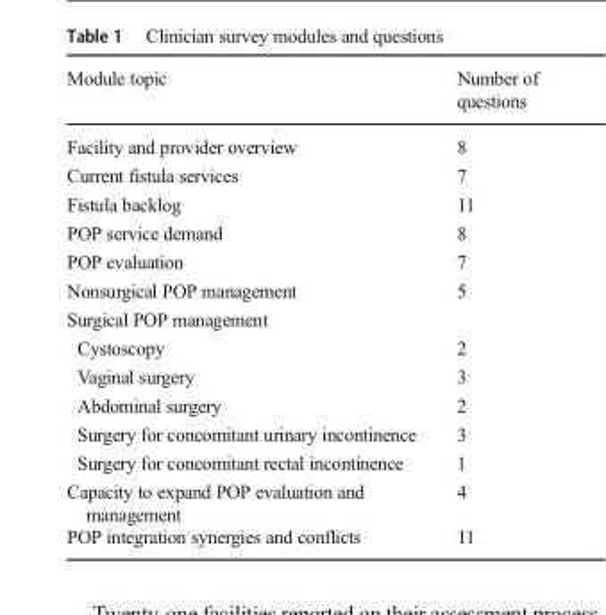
<table><thead><tr><td>Module topic</td><td>Number of questions</td></tr></thead><tbody><tr><td>Facility and provider overview</td><td>8</td></tr><tr><td>Current fistula services</td><td>7</td></tr><tr><td>Fistula backlog</td><td>11</td></tr><tr><td>POP service demand</td><td>8</td></tr><tr><td>POP evaluation</td><td>7</td></tr><tr><td>Nonsurgical POP management</td><td>5</td></tr><tr><td colspan="2">Surgical POP management</td></tr><tr><td>Cystoscopy</td><td>2</td></tr><tr><td>Vaginal surgery</td><td>3</td></tr><tr><td>Abdominal surgery</td><td>2</td></tr><tr><td>Surgery for concomitant urinary incontinence</td><td>3</td></tr><tr><td>Surgery for concomitant rectal incontinence</td><td>1</td></tr><tr><td>Capacity to expand POP evaluation and management</td><td>4</td></tr><tr><td>POP integration synergies and conflicts</td><td>11</td></tr></tbody></table>